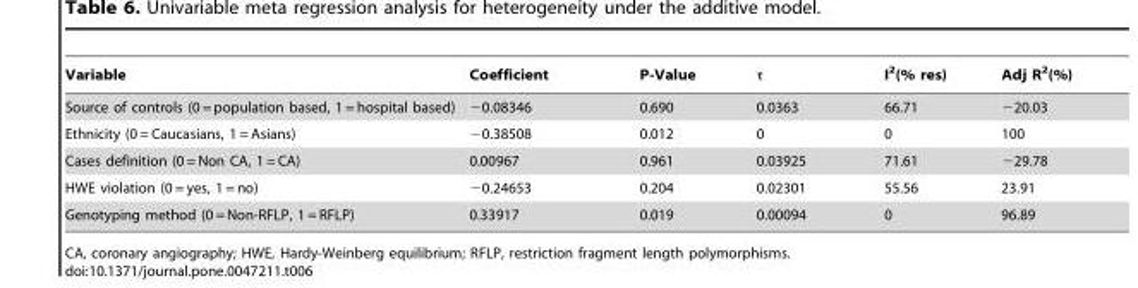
<table><thead><tr><td>Variable</td><td>Coefficient</td><td>P-Value</td><td>τ</td><td>I<sup>2</sup>(% res)</td><td>Adj R<sup>2</sup>(%)</td></tr></thead><tbody><tr><td>Source of controls (0 = population based, 1 = hospital based)</td><td>−0.08346</td><td>0.690</td><td>0.0363</td><td>66.71</td><td>−20.03</td></tr><tr><td>Ethnicity (0 = Caucasians, 1 = Asians)</td><td>−0.38508</td><td>0.012</td><td>0</td><td>0</td><td>100</td></tr><tr><td>Cases definition (0 = Non CA, 1 = CA)</td><td>0.00967</td><td>0.961</td><td>0.03925</td><td>71.61</td><td>−29.78</td></tr><tr><td>HWE violation (0 = yes, 1 = no)</td><td>−0.24653</td><td>0.204</td><td>0.02301</td><td>55.56</td><td>23.91</td></tr><tr><td>Genotyping method (0 = Non-RFLP, 1 = RFLP)</td><td>0.33917</td><td>0.019</td><td>0.00094</td><td>0</td><td>96.89</td></tr></tbody></table>